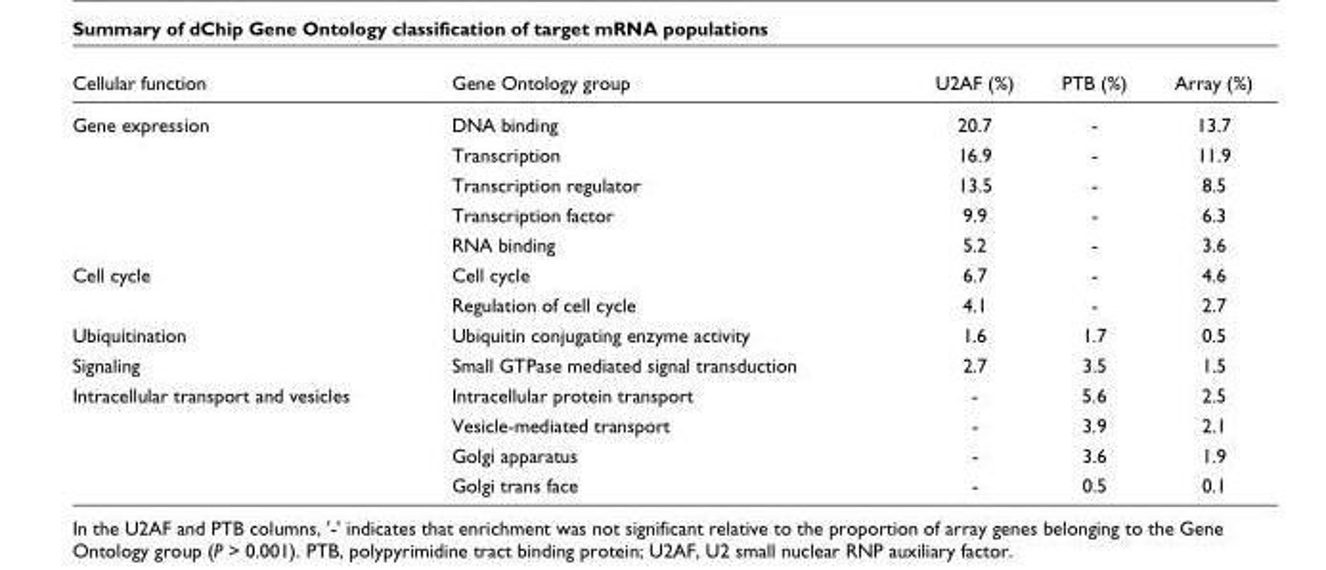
<table><thead><tr><td>Cellular function</td><td>Gene Ontology group</td><td>U2AF (%)</td><td>PTB (%)</td><td>Array (%)</td></tr></thead><tbody><tr><td rowspan="5">Gene expression</td><td>DNA binding</td><td>20.7</td><td>-</td><td>13.7</td></tr><tr><td>Transcription</td><td>16.9</td><td>-</td><td>11.9</td></tr><tr><td>Transcription regulator</td><td>13.5</td><td>-</td><td>8.5</td></tr><tr><td>Transcription factor</td><td>9.9</td><td>-</td><td>6.3</td></tr><tr><td>RNA binding</td><td>5.2</td><td>-</td><td>3.6</td></tr><tr><td rowspan="2">Cell cycle</td><td>Cell cycle</td><td>6.7</td><td>-</td><td>4.6</td></tr><tr><td>Regulation of cell cycle</td><td>4.1</td><td>-</td><td>2.7</td></tr><tr><td>Ubiquitination</td><td>Ubiquitin conjugating enzyme activity</td><td>1.6</td><td>1.7</td><td>0.5</td></tr><tr><td>Signaling</td><td>Small GTPase mediated signal transduction</td><td>2.7</td><td>3.5</td><td>1.5</td></tr><tr><td rowspan="4">Intracellular transport and vesicles</td><td>Intracellular protein transport</td><td>-</td><td>5.6</td><td>2.5</td></tr><tr><td>Vesicle-mediated transport</td><td>-</td><td>3.9</td><td>2.1</td></tr><tr><td>Golgi apparatus</td><td>-</td><td>3.6</td><td>1.9</td></tr><tr><td>Golgi trans face</td><td>-</td><td>0.5</td><td>0.1</td></tr></tbody></table>